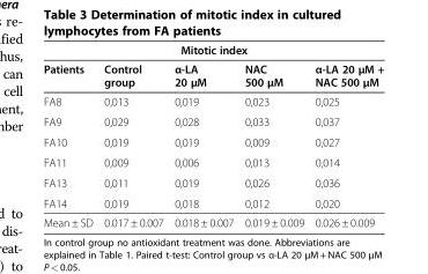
<table><thead><tr><td colspan="5">Mitotic index</td></tr><tr><td>Patients</td><td>Control group</td><td>α-LA 20 μM</td><td>NAC 500 μM</td><td>α-LA 20 μM + NAC 500 μM</td></tr></thead><tbody><tr><td>FA8</td><td>0,013</td><td>0,019</td><td>0,023</td><td>0,025</td></tr><tr><td>FA9</td><td>0,029</td><td>0,028</td><td>0,033</td><td>0,037</td></tr><tr><td>FA10</td><td>0,019</td><td>0,019</td><td>0,009</td><td>0,027</td></tr><tr><td>FA11</td><td>0,009</td><td>0,006</td><td>0,013</td><td>0,014</td></tr><tr><td>FA13</td><td>0,011</td><td>0,019</td><td>0,026</td><td>0,036</td></tr><tr><td>FA14</td><td>0,019</td><td>0,018</td><td>0,012</td><td>0,020</td></tr><tr><td>Mean ± SD</td><td>0.017 ± 0.007</td><td>0.018 ± 0.007</td><td>0.019 ± 0.009</td><td>0.026 ± 0.009</td></tr></tbody></table>